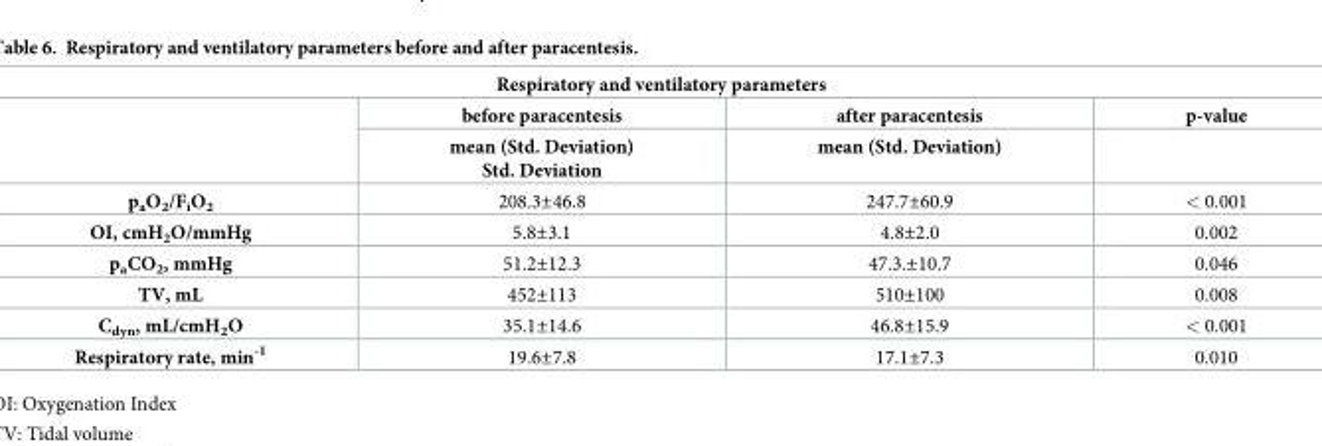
<table><thead><tr><td colspan="4">Respiratory and ventilatory parameters</td></tr><tr><td rowspan="2"></td><td rowspan="2">before paracentesis mean (Std. Deviation) Std. Deviation</td><td rowspan="2">after paracentesis mean (Std. Deviation)</td><td rowspan="2">p-value</td></tr><tr></tr></thead><tbody><tr><td>p<sub>a</sub>O<sub>2</sub>/F<sub>i</sub>O<sub>2</sub></td><td>208.3±46.8</td><td>247.7±60.9</td><td>&lt; 0.001</td></tr><tr><td>OI, cmH<sub>2</sub>O/mmHg</td><td>5.8±3.1</td><td>4.8±2.0</td><td>0.002</td></tr><tr><td>p<sub>a</sub>CO<sub>2</sub>, mmHg</td><td>51.2±12.3</td><td>47.3.±10.7</td><td>0.046</td></tr><tr><td>TV, mL</td><td>452±113</td><td>510±100</td><td>0.008</td></tr><tr><td>C<sub>dyn</sub>, mL/cmH<sub>2</sub>O</td><td>35.1±14.6</td><td>46.8±15.9</td><td>&lt; 0.001</td></tr><tr><td>Respiratory rate, min<sup>-1</sup></td><td>19.6±7.8</td><td>17.1±7.3</td><td>0.010</td></tr></tbody></table>